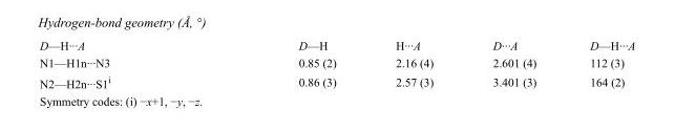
<table><tbody><tr><td>D—H···A</td><td>D—H</td><td>H···A</td><td>D···A</td><td>D—H···A</td></tr><tr><td>N1—H1n···N3</td><td>0.85 (2)</td><td>2.16 (4)</td><td>2.601 (4)</td><td>112 (3)</td></tr><tr><td>N2—H2n···S1<sup>i</sup></td><td>0.86 (3)</td><td>2.57 (3)</td><td>3.401 (3)</td><td>164 (2)</td></tr></tbody></table>